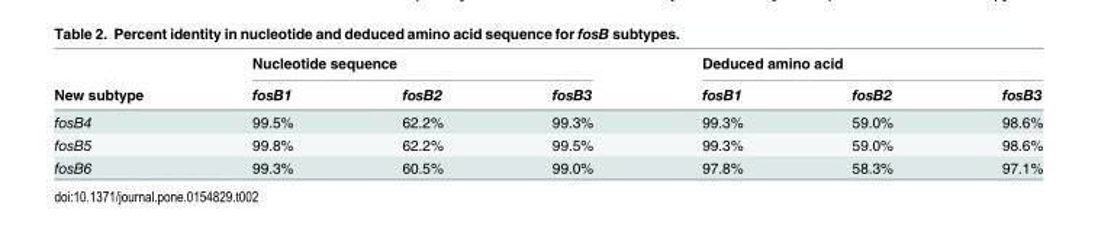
<table><thead><tr><td rowspan="2">New subtype</td><td colspan="3">Nucleotide sequence</td><td colspan="3">Deduced amino acid</td></tr><tr><td>fosB1</td><td>fosB2</td><td>fosB3</td><td>fosB1</td><td>fosB2</td><td>fosB3</td></tr></thead><tbody><tr><td>fosB4</td><td>99.5%</td><td>62.2%</td><td>99.3%</td><td>99.3%</td><td>59.0%</td><td>98.6%</td></tr><tr><td>fosB5</td><td>99.8%</td><td>62.2%</td><td>99.5%</td><td>99.3%</td><td>59.0%</td><td>98.6%</td></tr><tr><td>fosB6</td><td>99.3%</td><td>60.5%</td><td>99.0%</td><td>97.8%</td><td>58.3%</td><td>97.1%</td></tr></tbody></table>